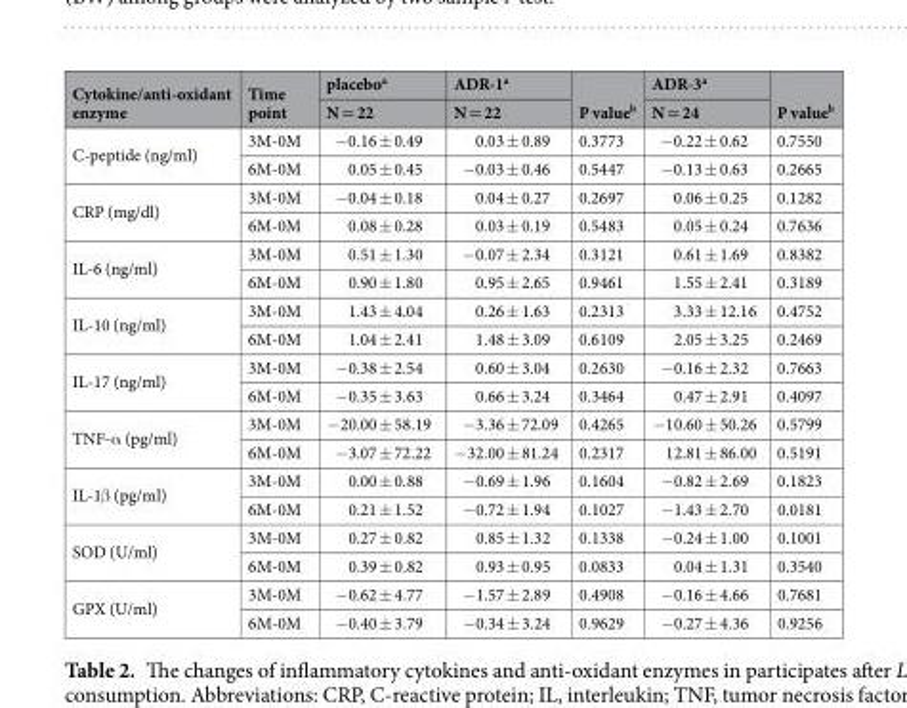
<table><thead><tr><td rowspan="2">Cytokine/anti-oxidant enzyme</td><td rowspan="2">Time point</td><td rowspan="2">placebo<sup>a</sup> N = 22</td><td rowspan="2">ADR-1<sup>a</sup> N = 22</td><td rowspan="2">P value<sup>b</sup></td><td rowspan="2">ADR-3<sup>a</sup> N = 24</td><td rowspan="2">P value<sup>b</sup></td></tr><tr></tr></thead><tbody><tr><td rowspan="2">C-peptide (ng/ml)</td><td>3M-0M</td><td>−0.16 ± 0.49</td><td>0.03 ± 0.89</td><td>0.3773</td><td>−0.22 ± 0.62</td><td>0.7550</td></tr><tr><td>6M-0M</td><td>0.05 ± 0.45</td><td>−0.03 ± 0.46</td><td>0.5447</td><td>−0.13 ± 0.63</td><td>0.2665</td></tr><tr><td rowspan="2">CRP (mg/dl)</td><td>3M-0M</td><td>−0.04 ± 0.18</td><td>0.04 ± 0.27</td><td>0.2697</td><td>0.06 ± 0.25</td><td>0.1282</td></tr><tr><td>6M-0M</td><td>0.08 ± 0.28</td><td>0.03 ± 0.19</td><td>0.5483</td><td>0.05 ± 0.24</td><td>0.7636</td></tr><tr><td rowspan="2">IL-6 (ng/ml)</td><td>3M-0M</td><td>0.51 ± 1.30</td><td>−0.07 ± 2.34</td><td>0.3121</td><td>0.61 ± 1.69</td><td>0.8382</td></tr><tr><td>6M-0M</td><td>0.90 ± 1.80</td><td>0.95 ± 2.65</td><td>0.9461</td><td>1.55 ± 2.41</td><td>0.3189</td></tr><tr><td rowspan="2">IL-10 (ng/ml)</td><td>3M-0M</td><td>1.43 ± 4.04</td><td>0.26 ± 1.63</td><td>0.2313</td><td>3.33 ± 12.16</td><td>0.4752</td></tr><tr><td>6M-0M</td><td>1.04 ± 2.41</td><td>1.48 ± 3.09</td><td>0.6109</td><td>2.05 ± 3.25</td><td>0.2469</td></tr><tr><td rowspan="2">IL-17 (ng/ml)</td><td>3M-0M</td><td>−0.38 ± 2.54</td><td>0.60 ± 3.04</td><td>0.2630</td><td>−0.16 ± 2.32</td><td>0.7663</td></tr><tr><td>6M-0M</td><td>−0.35 ± 3.63</td><td>0.66 ± 3.24</td><td>0.3464</td><td>0.47 ± 2.91</td><td>0.4097</td></tr><tr><td rowspan="2">TNF-α (pg/ml)</td><td>3M-0M</td><td>−20.00 ± 58.19</td><td>−3.36 ± 72.09</td><td>0.4265</td><td>−10.60 ± 50.26</td><td>0.5799</td></tr><tr><td>6M-0M</td><td>−3.07 ± 72.22</td><td>−32.00 ± 81.24</td><td>0.2317</td><td>12.81 ± 86.00</td><td>0.5191</td></tr><tr><td rowspan="2">IL-1β (pg/ml)</td><td>3M-0M</td><td>0.00 ± 0.88</td><td>−0.69 ± 1.96</td><td>0.1604</td><td>−0.82 ± 2.69</td><td>0.1823</td></tr><tr><td>6M-0M</td><td>0.21 ± 1.52</td><td>−0.72 ± 1.94</td><td>0.1027</td><td>−1.43 ± 2.70</td><td>0.0181</td></tr><tr><td rowspan="2">SOD (U/ml)</td><td>3M-0M</td><td>0.27 ± 0.82</td><td>0.85 ± 1.32</td><td>0.1338</td><td>−0.24 ± 1.00</td><td>0.1001</td></tr><tr><td>6M-0M</td><td>0.39 ± 0.82</td><td>0.93 ± 0.95</td><td>0.0833</td><td>0.04 ± 1.31</td><td>0.3540</td></tr><tr><td rowspan="2">GPX (U/ml)</td><td>3M-0M</td><td>−0.62 ± 4.77</td><td>−1.57 ± 2.89</td><td>0.4908</td><td>−0.16 ± 4.66</td><td>0.7681</td></tr><tr><td>6M-0M</td><td>−0.40 ± 3.79</td><td>−0.34 ± 3.24</td><td>0.9629</td><td>−0.27 ± 4.36</td><td>0.9256</td></tr></tbody></table>